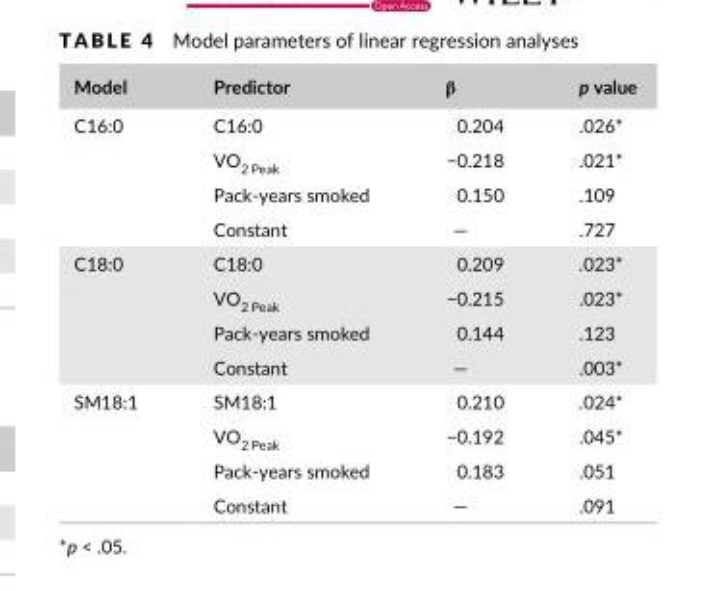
<table><thead><tr><td>Model</td><td>Predictor</td><td>β</td><td>p value</td></tr></thead><tbody><tr><td rowspan="4">C16:0</td><td>C16:0</td><td>0.204</td><td>.026*</td></tr><tr><td>VO<sub>2 Peak</sub></td><td>−0.218</td><td>.021*</td></tr><tr><td>Pack- years smoked</td><td>0.150</td><td>.109</td></tr><tr><td>Constant</td><td>—</td><td>.727</td></tr><tr><td rowspan="4">C18:0</td><td>C18:0</td><td>0.209</td><td>.023*</td></tr><tr><td>VO<sub>2 Peak</sub></td><td>−0.215</td><td>.023*</td></tr><tr><td>Pack- years smoked</td><td>0.144</td><td>.123</td></tr><tr><td>Constant</td><td>—</td><td>.003*</td></tr><tr><td rowspan="4">SM18:1</td><td>SM18:1</td><td>0.210</td><td>.024*</td></tr><tr><td>VO<sub>2 Peak</sub></td><td>−0.192</td><td>.045*</td></tr><tr><td>Pack- years smoked</td><td>0.183</td><td>.051</td></tr><tr><td>Constant</td><td>—</td><td>.091</td></tr></tbody></table>